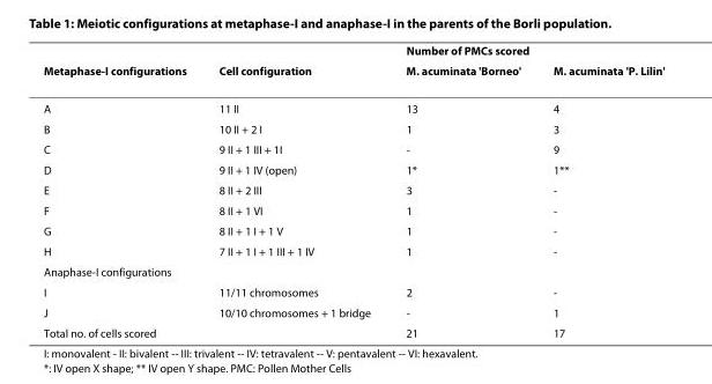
<table><thead><tr><td rowspan="2">Metaphase-I configurations</td><td rowspan="2">Cell configuration</td><td colspan="2">Number of PMCs scored</td></tr><tr><td>M. acuminata &#x27;Borneo&#x27;</td><td>M. acuminata &#x27;P. Lilin&#x27;</td></tr></thead><tbody><tr><td>A</td><td>11 II</td><td>13</td><td>4</td></tr><tr><td>B</td><td>10 II + 2 I</td><td>1</td><td>3</td></tr><tr><td>C</td><td>9 II + 1 III + 1I</td><td>-</td><td>9</td></tr><tr><td>D</td><td>9 II + 1 IV (open)</td><td>1*</td><td>1**</td></tr><tr><td>E</td><td>8 II + 2 III</td><td>3</td><td>-</td></tr><tr><td>F</td><td>8 II + 1 VI</td><td>1</td><td>-</td></tr><tr><td>G</td><td>8 II + 1 I + 1 V</td><td>1</td><td>-</td></tr><tr><td>H</td><td>7 II + 1 I + 1 III + 1 IV</td><td>1</td><td>-</td></tr><tr><td colspan="4">Anaphase-I configurations</td></tr><tr><td>I</td><td>11/11 chromosomes</td><td>2</td><td>-</td></tr><tr><td>J</td><td>10/10 chromosomes + 1 bridge</td><td>-</td><td>1</td></tr><tr><td>Total no. of cells scored</td><td></td><td>21</td><td>17</td></tr></tbody></table>